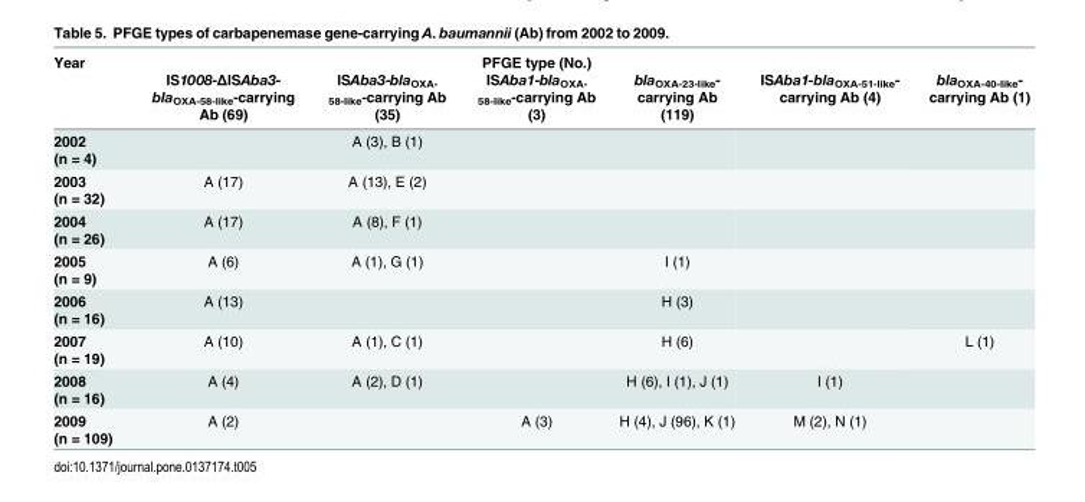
<table><thead><tr><td rowspan="2">Year</td><td rowspan="2">IS1008-ΔISAba3- bla<sub>OXA-58-like</sub>-carrying Ab (69)</td><td rowspan="2">ISAba3-bla<sub>OXA- 58-like</sub>-carrying Ab (35)</td><td rowspan="2">PFGE type (No.) ISAba1-bla<sub>OXA- 58-like</sub>-carrying Ab (3)</td><td rowspan="2">bla<sub>OXA-23-like</sub>- carrying Ab (119)</td><td rowspan="2">ISAba1-bla<sub>OXA-51-like</sub>- carrying Ab (4)</td><td rowspan="2">bla<sub>OXA-40-like</sub>- carrying Ab (1)</td></tr><tr></tr></thead><tbody><tr><td>2002 (n = 4)</td><td></td><td>A (3), B (1)</td><td></td><td></td><td></td><td></td></tr><tr><td>2003 (n = 32)</td><td>A (17)</td><td>A (13), E (2)</td><td></td><td></td><td></td><td></td></tr><tr><td>2004 (n = 26)</td><td>A (17)</td><td>A (8), F (1)</td><td></td><td></td><td></td><td></td></tr><tr><td>2005 (n = 9)</td><td>A (6)</td><td>A (1), G (1)</td><td></td><td>I (1)</td><td></td><td></td></tr><tr><td>2006 (n = 16)</td><td>A (13)</td><td></td><td></td><td>H (3)</td><td></td><td></td></tr><tr><td>2007 (n = 19)</td><td>A (10)</td><td>A (1), C (1)</td><td></td><td>H (6)</td><td></td><td>L (1)</td></tr><tr><td>2008 (n = 16)</td><td>A (4)</td><td>A (2), D (1)</td><td></td><td>H (6), I (1), J (1)</td><td>I (1)</td><td></td></tr><tr><td>2009 (n = 109)</td><td>A (2)</td><td></td><td>A (3)</td><td>H (4), J (96), K (1)</td><td>M (2), N (1)</td><td></td></tr></tbody></table>